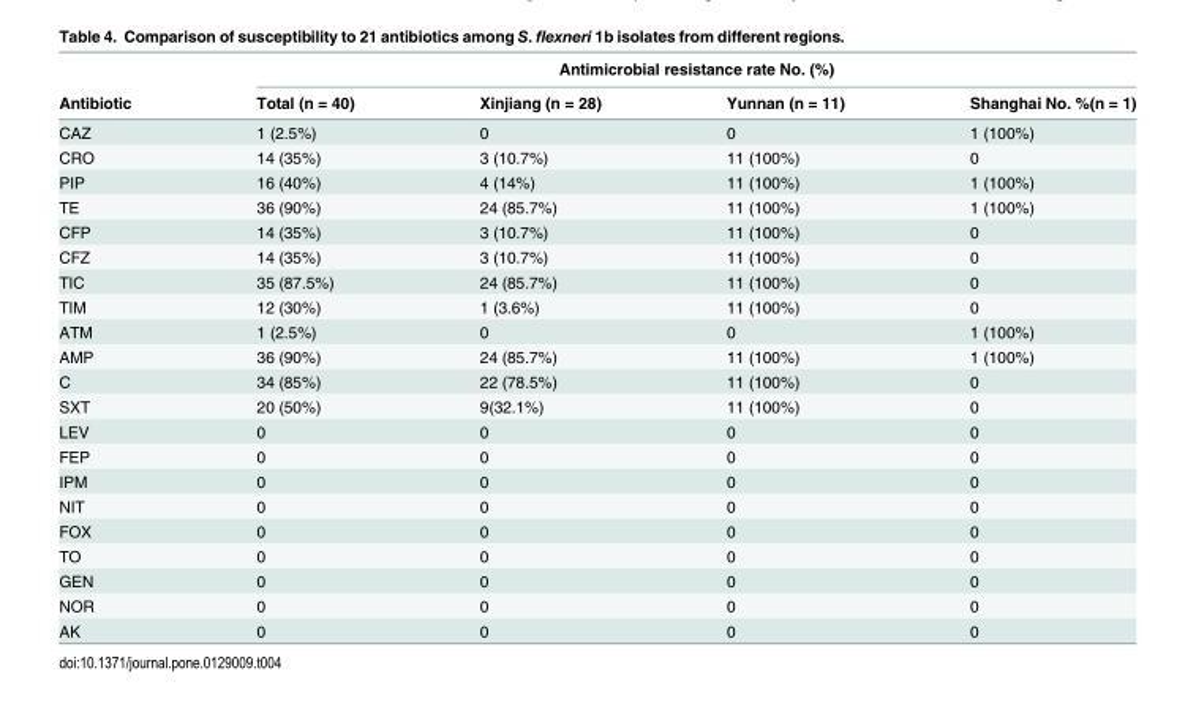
<table><thead><tr><td rowspan="2">Antibiotic</td><td colspan="4">Antimicrobial resistance rate No. (%)</td></tr><tr><td>Total (n = 40)</td><td>Xinjiang (n = 28)</td><td>Yunnan (n = 11)</td><td>Shanghai No. %(n = 1)</td></tr></thead><tbody><tr><td>CAZ</td><td>1 (2.5%)</td><td>0</td><td>0</td><td>1 (100%)</td></tr><tr><td>CRO</td><td>14 (35%)</td><td>3 (10.7%)</td><td>11 (100%)</td><td>0</td></tr><tr><td>PIP</td><td>16 (40%)</td><td>4 (14%)</td><td>11 (100%)</td><td>1 (100%)</td></tr><tr><td>TE</td><td>36 (90%)</td><td>24 (85.7%)</td><td>11 (100%)</td><td>1 (100%)</td></tr><tr><td>CFP</td><td>14 (35%)</td><td>3 (10.7%)</td><td>11 (100%)</td><td>0</td></tr><tr><td>CFZ</td><td>14 (35%)</td><td>3 (10.7%)</td><td>11 (100%)</td><td>0</td></tr><tr><td>TIC</td><td>35 (87.5%)</td><td>24 (85.7%)</td><td>11 (100%)</td><td>0</td></tr><tr><td>TIM</td><td>12 (30%)</td><td>1 (3.6%)</td><td>11 (100%)</td><td>0</td></tr><tr><td>ATM</td><td>1 (2.5%)</td><td>0</td><td>0</td><td>1 (100%)</td></tr><tr><td>AMP</td><td>36 (90%)</td><td>24 (85.7%)</td><td>11 (100%)</td><td>1 (100%)</td></tr><tr><td>C</td><td>34 (85%)</td><td>22 (78.5%)</td><td>11 (100%)</td><td>0</td></tr><tr><td>SXT</td><td>20 (50%)</td><td>9(32.1%)</td><td>11 (100%)</td><td>0</td></tr><tr><td>LEV</td><td>0</td><td>0</td><td>0</td><td>0</td></tr><tr><td>FEP</td><td>0</td><td>0</td><td>0</td><td>0</td></tr><tr><td>IPM</td><td>0</td><td>0</td><td>0</td><td>0</td></tr><tr><td>NIT</td><td>0</td><td>0</td><td>0</td><td>0</td></tr><tr><td>FOX</td><td>0</td><td>0</td><td>0</td><td>0</td></tr><tr><td>TO</td><td>0</td><td>0</td><td>0</td><td>0</td></tr><tr><td>GEN</td><td>0</td><td>0</td><td>0</td><td>0</td></tr><tr><td>NOR</td><td>0</td><td>0</td><td>0</td><td>0</td></tr><tr><td>AK</td><td>0</td><td>0</td><td>0</td><td>0</td></tr></tbody></table>